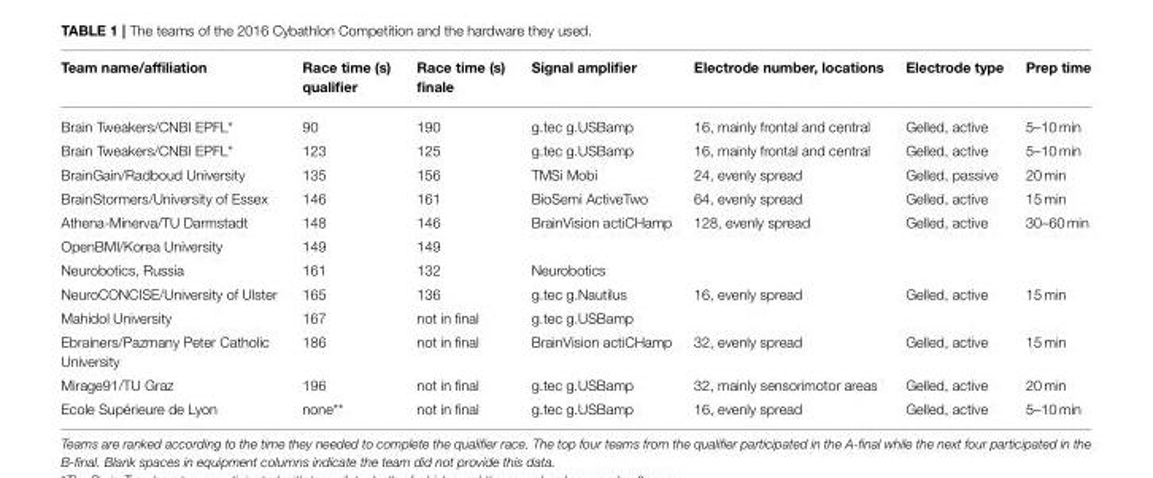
<table><thead><tr><td>Team name/affiliation</td><td>Race time (s) qualifier</td><td>Race time (s) finale</td><td>Signal amplifier</td><td>Electrode number, locations</td><td>Electrode type</td><td>Prep time</td></tr></thead><tbody><tr><td>Brain Tweakers/CNBI EPFL*</td><td>90</td><td>190</td><td>g.tec g.USBamp</td><td>16, mainly frontal and central</td><td>Gelled, active</td><td>5–10 min</td></tr><tr><td>Brain Tweakers/CNBI EPFL*</td><td>123</td><td>125</td><td>g.tec g.USBamp</td><td>16, mainly frontal and central</td><td>Gelled, active</td><td>5–10 min</td></tr><tr><td>BrainGain/Radboud University</td><td>135</td><td>156</td><td>TMSi Mobi</td><td>24, evenly spread</td><td>Gelled, passive</td><td>20 min</td></tr><tr><td>BrainStormers/University of Essex</td><td>146</td><td>161</td><td>BioSemi ActiveTwo</td><td>64, evenly spread</td><td>Gelled, active</td><td>15 min</td></tr><tr><td>Athena-Minerva/TU Darmstadt</td><td>148</td><td>146</td><td>BrainVision actiCHamp</td><td>128, evenly spread</td><td>Gelled, active</td><td>30–60 min</td></tr><tr><td>OpenBMI/Korea University</td><td>149</td><td>149</td><td></td><td></td><td></td><td></td></tr><tr><td>Neurobotics, Russia</td><td>161</td><td>132</td><td>Neurobotics</td><td></td><td></td><td></td></tr><tr><td>NeuroCONCISE/University of Ulster</td><td>165</td><td>136</td><td>g.tec g.Nautilus</td><td>16, evenly spread</td><td>Gelled, active</td><td>15 min</td></tr><tr><td>Mahidol University</td><td>167</td><td>not in final</td><td>g.tec g.USBamp</td><td></td><td></td><td></td></tr><tr><td>Ebrainers/Pazmany Peter Catholic University</td><td>186</td><td>not in final</td><td>BrainVision actiCHamp</td><td>32, evenly spread</td><td>Gelled, active</td><td>15 min</td></tr><tr><td>Mirage91/TU Graz</td><td>196</td><td>not in final</td><td>g.tec g.USBamp</td><td>32, mainly sensorimotor areas</td><td>Gelled, active</td><td>20 min</td></tr><tr><td>Ecole Supérieure de Lyon</td><td>none**</td><td>not in final</td><td>g.tec g.USBamp</td><td>16, evenly spread</td><td>Gelled, active</td><td>5–10 min</td></tr></tbody></table>